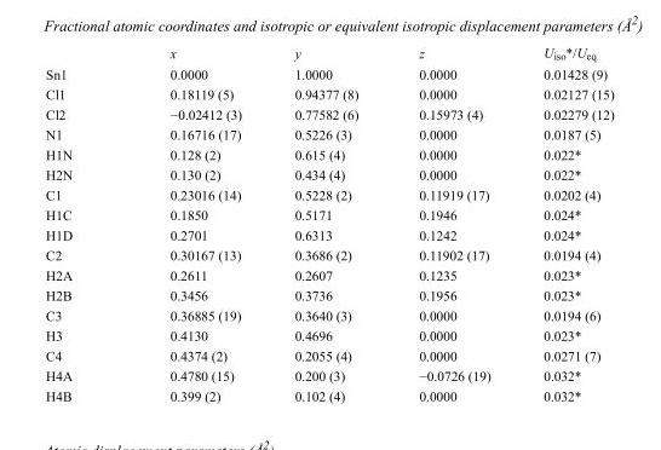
<table><thead><tr><td></td><td>x</td><td>y</td><td>z</td><td>U<sub>iso</sub>*/U<sub>eq</sub></td></tr></thead><tbody><tr><td>Sn1</td><td>0.0000</td><td>1.0000</td><td>0.0000</td><td>0.01428 (9)</td></tr><tr><td>Cl1</td><td>0.18119 (5)</td><td>0.94377 (8)</td><td>0.0000</td><td>0.02127 (15)</td></tr><tr><td>Cl2</td><td>−0.02412 (3)</td><td>0.77582 (6)</td><td>0.15973 (4)</td><td>0.02279 (12)</td></tr><tr><td>N1</td><td>0.16716 (17)</td><td>0.5226 (3)</td><td>0.0000</td><td>0.0187 (5)</td></tr><tr><td>H1N</td><td>0.128 (2)</td><td>0.615 (4)</td><td>0.0000</td><td>0.022*</td></tr><tr><td>H2N</td><td>0.130 (2)</td><td>0.434 (4)</td><td>0.0000</td><td>0.022*</td></tr><tr><td>C1</td><td>0.23016 (14)</td><td>0.5228 (2)</td><td>0.11919 (17)</td><td>0.0202 (4)</td></tr><tr><td>H1C</td><td>0.1850</td><td>0.5171</td><td>0.1946</td><td>0.024*</td></tr><tr><td>H1D</td><td>0.2701</td><td>0.6313</td><td>0.1242</td><td>0.024*</td></tr><tr><td>C2</td><td>0.30167 (13)</td><td>0.3686 (2)</td><td>0.11902 (17)</td><td>0.0194 (4)</td></tr><tr><td>H2A</td><td>0.2611</td><td>0.2607</td><td>0.1235</td><td>0.023*</td></tr><tr><td>H2B</td><td>0.3456</td><td>0.3736</td><td>0.1956</td><td>0.023*</td></tr><tr><td>C3</td><td>0.36885 (19)</td><td>0.3640 (3)</td><td>0.0000</td><td>0.0194 (6)</td></tr><tr><td>H3</td><td>0.4130</td><td>0.4696</td><td>0.0000</td><td>0.023*</td></tr><tr><td>C4</td><td>0.4374 (2)</td><td>0.2055 (4)</td><td>0.0000</td><td>0.0271 (7)</td></tr><tr><td>H4A</td><td>0.4780 (15)</td><td>0.200 (3)</td><td>−0.0726 (19)</td><td>0.032*</td></tr><tr><td>H4B</td><td>0.399 (2)</td><td>0.102 (4)</td><td>0.0000</td><td>0.032*</td></tr></tbody></table>